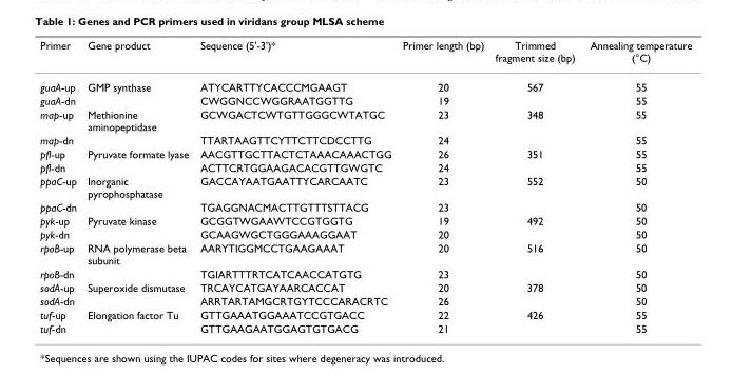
<table><thead><tr><td>Primer</td><td>Gene product</td><td>Sequence (5&#x27;-3&#x27;)*</td><td>Primer length (bp)</td><td>Trimmed fragment size (bp)</td><td>Annealing temperature (°C)</td></tr></thead><tbody><tr><td>guaA-up</td><td>GMP synthase</td><td>ATYCARTTYCACCCMGAAGT</td><td>20</td><td>567</td><td>55</td></tr><tr><td>guaA-dn</td><td></td><td>CWGGNCCWGGRAATGGTTG</td><td>19</td><td></td><td>55</td></tr><tr><td>map-up</td><td>Methionine aminopeptidase</td><td>GCWGACTCWTGTTGGGCWTATGC</td><td>23</td><td>348</td><td>55</td></tr><tr><td>map-dn</td><td></td><td>TTARTAAGTTCYTTCTTCDCCTTG</td><td>24</td><td></td><td>55</td></tr><tr><td>pfl-up</td><td>Pyruvate formate lyase</td><td>AACGTTGCTTACTCTAAACAAACTGG</td><td>26</td><td>351</td><td>55</td></tr><tr><td>pfl-dn</td><td></td><td>ACTTCRTGGAAGACACGTTGWGTC</td><td>24</td><td></td><td>55</td></tr><tr><td>ppaC-up</td><td>Inorganic pyrophosphatase</td><td>GACCAYAATGAATTYCARCAATC</td><td>23</td><td>552</td><td>50</td></tr><tr><td>ppaC-dn</td><td></td><td>TGAGGNACMACTTGTTTSTTACG</td><td>23</td><td></td><td>50</td></tr><tr><td>pyk-up</td><td>Pyruvate kinase</td><td>GCGGTWGAAWTCCGTGGTG</td><td>19</td><td>492</td><td>50</td></tr><tr><td>pyk-dn</td><td></td><td>GCAAGWGCTGGGAAAGGAAT</td><td>20</td><td></td><td>50</td></tr><tr><td>rpoB-up</td><td>RNA polymerase beta subunit</td><td>AARYTIGGMCCTGAAGAAAT</td><td>20</td><td>516</td><td>50</td></tr><tr><td>rpoB-dn</td><td></td><td>TGIARTTTRTCATCAACCATGTG</td><td>23</td><td></td><td>50</td></tr><tr><td>sodA-up</td><td>Superoxide dismutase</td><td>TRCAYCATGAYAARCACCAT</td><td>20</td><td>378</td><td>50</td></tr><tr><td>sodA-dn</td><td></td><td>ARRTARTAMGCRTGYTCCCARACRTC</td><td>26</td><td></td><td>50</td></tr><tr><td>tuf-up</td><td>Elongation factor Tu</td><td>GTTGAAATGGAAATCCGTGACC</td><td>22</td><td>426</td><td>55</td></tr><tr><td>tuf-dn</td><td></td><td>GTTGAAGAATGGAGTGTGACG</td><td>21</td><td></td><td>55</td></tr></tbody></table>